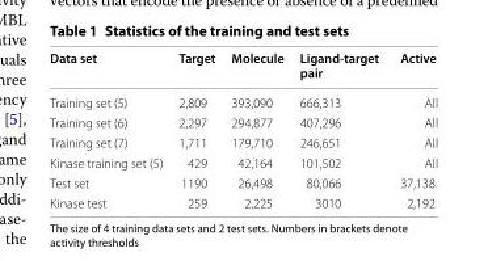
<table><thead><tr><td>Data set</td><td>Target</td><td>Molecule</td><td>Ligand-target pair</td><td>Active</td></tr></thead><tbody><tr><td>Training set (5)</td><td>2,809</td><td>393,090</td><td>666,313</td><td>All</td></tr><tr><td>Training set (6)</td><td>2,297</td><td>294,877</td><td>407,296</td><td>All</td></tr><tr><td>Training set (7)</td><td>1,711</td><td>179,710</td><td>246,651</td><td>All</td></tr><tr><td>Kinase training set (5)</td><td>429</td><td>42,164</td><td>101,502</td><td>All</td></tr><tr><td>Test set</td><td>1190</td><td>26,498</td><td>80,066</td><td>37,138</td></tr><tr><td>Kinase test</td><td>259</td><td>2,225</td><td>3010</td><td>2,192</td></tr></tbody></table>